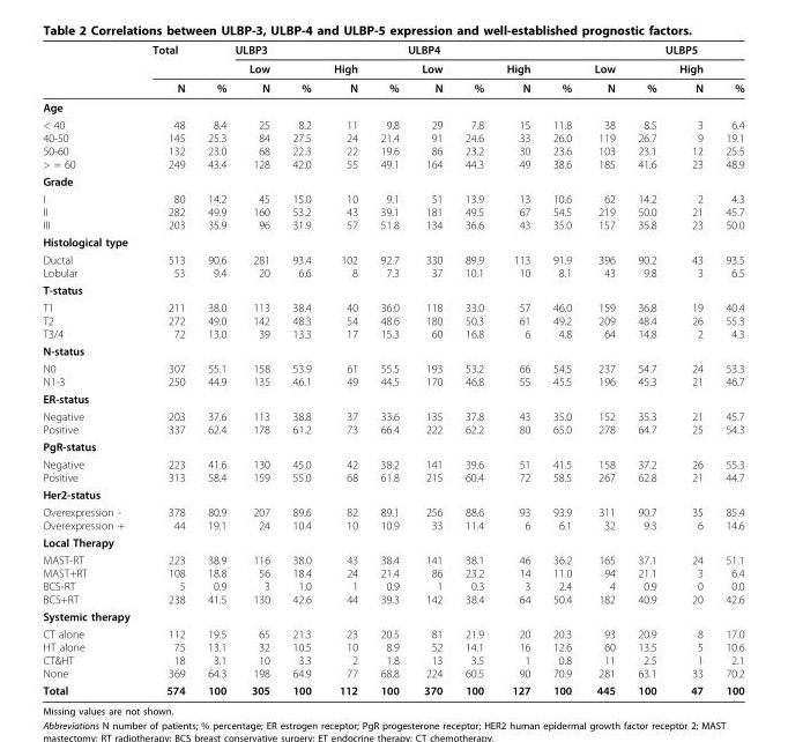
<table><thead><tr><td rowspan="3"></td><td colspan="2">Total</td><td colspan="2">ULBP3</td><td rowspan="3">High N</td><td rowspan="3">%</td><td colspan="4">ULBP4</td><td rowspan="3">Low N</td><td rowspan="3">%</td><td colspan="2">ULBP5</td></tr><tr><td rowspan="2">N</td><td rowspan="2">%</td><td rowspan="2">Low N</td><td rowspan="2">%</td><td rowspan="2">Low N</td><td rowspan="2">%</td><td rowspan="2">High N</td><td rowspan="2">%</td><td rowspan="2">High N</td><td rowspan="2">%</td></tr><tr></tr></thead><tbody><tr><td colspan="15">Age</td></tr><tr><td>&lt; 40 40-50 50-60 &gt; = 60</td><td>48 145 132 249</td><td>8.4 25.3 23.0 43.4</td><td>25 84 68 128</td><td>8.2 27.5 22.3 42.0</td><td>11 24 22 55</td><td>9.8 21.4 19.6 49.1</td><td>29 91 86 164</td><td>7.8 24.6 23.2 44.3</td><td>15 33 30 49</td><td>11.8 26.0 23.6 38.6</td><td>38 119 103 185</td><td>8.5 26.7 23.1 41.6</td><td>3 9 12 23</td><td>6.4 19.1 25.5 48.9</td></tr><tr><td colspan="15">Grade</td></tr><tr><td>I II III</td><td>80 282 203</td><td>14.2 49.9 35.9</td><td>45 160 96</td><td>15.0 53.2 31.9</td><td>10 43 57</td><td>9.1 39.1 51.8</td><td>51 181 134</td><td>13.9 49.5 36.6</td><td>13 67 43</td><td>10.6 54.5 35.0</td><td>62 219 157</td><td>14.2 50.0 35.8</td><td>2 21 23</td><td>4.3 45.7 50.0</td></tr><tr><td colspan="15">Histological type</td></tr><tr><td>Ductal Lobular</td><td>513 53</td><td>90.6 9.4</td><td>281 20</td><td>93.4 6.6</td><td>102 8</td><td>92.7 7.3</td><td>330 37</td><td>89.9 10.1</td><td>113 10</td><td>91.9 8.1</td><td>396 43</td><td>90.2 9.8</td><td>43 3</td><td>93.5 6.5</td></tr><tr><td colspan="15">T-status</td></tr><tr><td>T1 T2 T3/4</td><td>211 272 72</td><td>38.0 49.0 13.0</td><td>113 142 39</td><td>38.4 48.3 13.3</td><td>40 54 17</td><td>36.0 48.6 15.3</td><td>118 180 60</td><td>33.0 50.3 16.8</td><td>57 61 6</td><td>46.0 49.2 4.8</td><td>159 209 64</td><td>36.8 48.4 14.8</td><td>19 26 2</td><td>40.4 55.3 4.3</td></tr><tr><td colspan="15">N-status</td></tr><tr><td>N0 N1-3</td><td>307 250</td><td>55.1 44.9</td><td>158 135</td><td>53.9 46.1</td><td>61 49</td><td>55.5 44.5</td><td>193 170</td><td>53.2 46.8</td><td>66 55</td><td>54.5 45.5</td><td>237 196</td><td>54.7 45.3</td><td>24 21</td><td>53.3 46.7</td></tr><tr><td colspan="15">ER-status</td></tr><tr><td>Negative Positive</td><td>203 337</td><td>37.6 62.4</td><td>113 178</td><td>38.8 61.2</td><td>37 73</td><td>33.6 66.4</td><td>135 222</td><td>37.8 62.2</td><td>43 80</td><td>35.0 65.0</td><td>152 278</td><td>35.3 64.7</td><td>21 25</td><td>45.7 54.3</td></tr><tr><td colspan="15">PgR-status</td></tr><tr><td>Negative Positive</td><td>223 313</td><td>41.6 58.4</td><td>130 159</td><td>45.0 55.0</td><td>42 68</td><td>38.2 61.8</td><td>141 215</td><td>39.6 60.4</td><td>51 72</td><td>41.5 58.5</td><td>158 267</td><td>37.2 62.8</td><td>26 21</td><td>55.3 44.7</td></tr><tr><td colspan="15">Her2-status</td></tr><tr><td>Overexpression - Overexpression +</td><td>378 44</td><td>80.9 19.1</td><td>207 24</td><td>89.6 10.4</td><td>82 10</td><td>89.1 10.9</td><td>256 33</td><td>88.6 11.4</td><td>93 6</td><td>93.9 6.1</td><td>311 32</td><td>90.7 9.3</td><td>35 6</td><td>85.4 14.6</td></tr><tr><td colspan="15">Local Therapy</td></tr><tr><td>MAST-RT MAST+RT BCS-RT BCS+RT</td><td>223 108 5 238</td><td>38.9 18.8 0.9 41.5</td><td>116 56 3 130</td><td>38.0 18.4 1.0 42.6</td><td>43 24 1 44</td><td>38.4 21.4 0.9 39.3</td><td>141 86 1 142</td><td>38.1 23.2 0.3 38.4</td><td>46 14 3 64</td><td>36.2 11.0 2.4 50.4</td><td>165 94 4 182</td><td>37.1 21.1 0.9 40.9</td><td>24 3 0 20</td><td>51.1 6.4 0.0 42.6</td></tr><tr><td colspan="15">Systemic therapy</td></tr><tr><td>CT alone HT alone CT&amp;HT None</td><td>112 75 18 369</td><td>19.5 13.1 3.1 64.3</td><td>65 32 10 198</td><td>21.3 10.5 3.3 64.9</td><td>23 10 2 77</td><td>20.5 8.9 1.8 68.8</td><td>81 52 13 224</td><td>21.9 14.1 3.5 60.5</td><td>20 16 1 90</td><td>20.3 12.6 0.8 70.9</td><td>93 60 11 281</td><td>20.9 13.5 2.5 63.1</td><td>8 5 1 33</td><td>17.0 10.6 2.1 70.2</td></tr><tr><td>Total</td><td>574</td><td>100</td><td>305</td><td>100</td><td>112</td><td>100</td><td>370</td><td>100</td><td>127</td><td>100</td><td>445</td><td>100</td><td>47</td><td>100</td></tr></tbody></table>